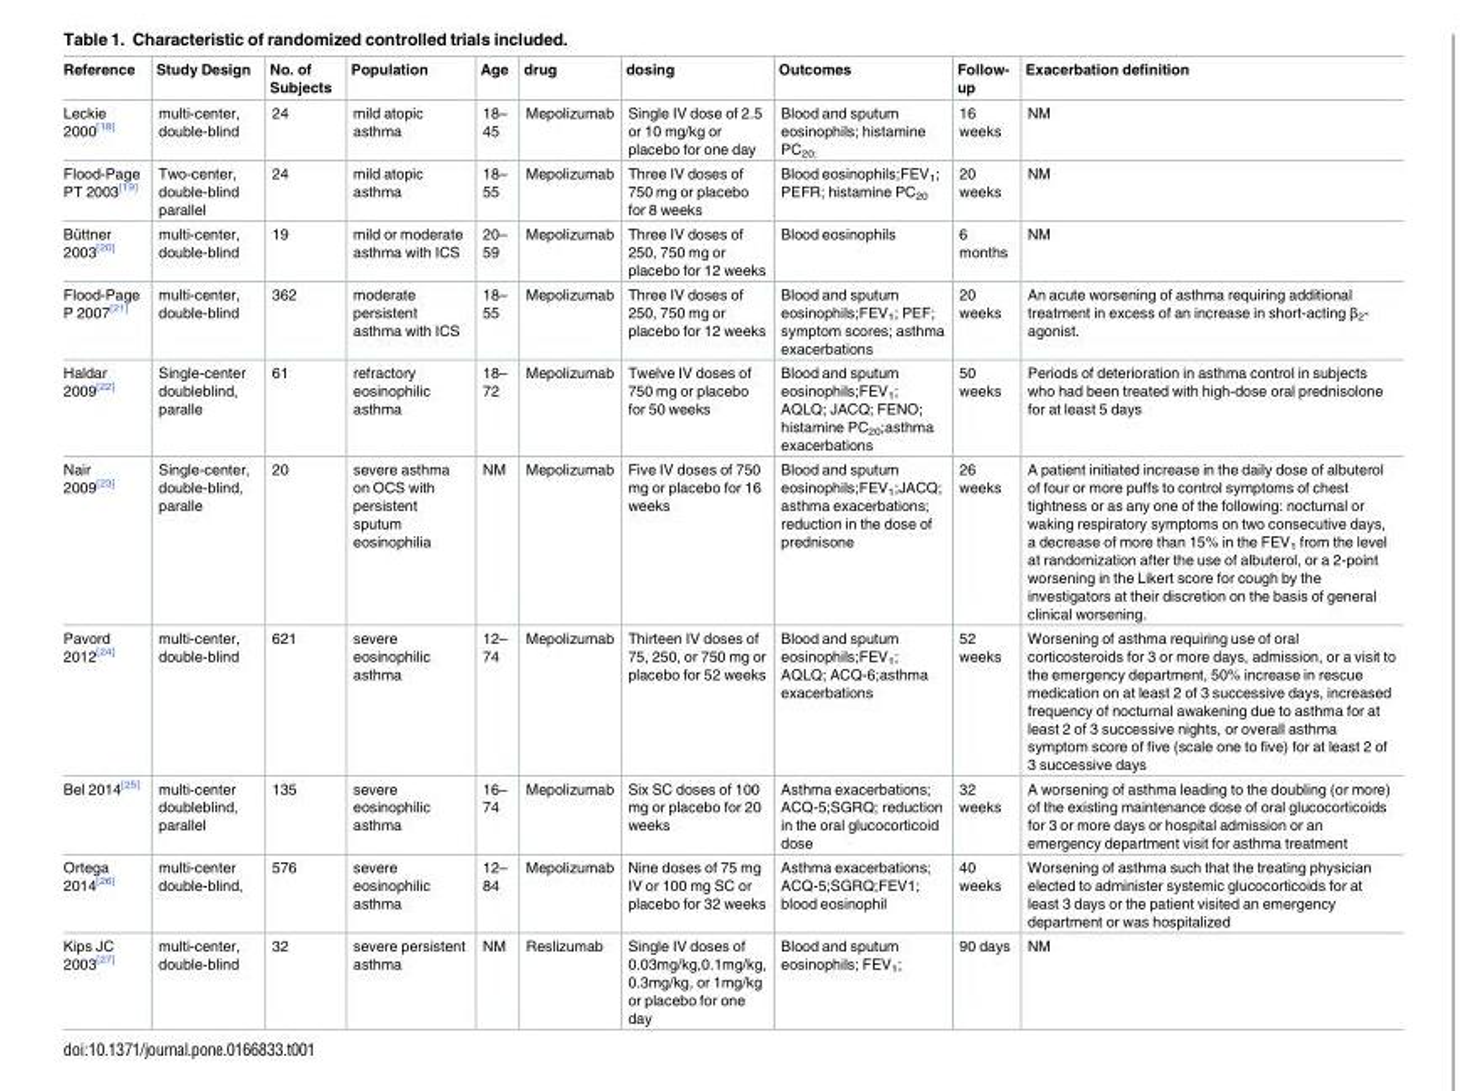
<table><thead><tr><td>Reference</td><td>Study Design</td><td>No. of Subjects</td><td>Population</td><td>Age</td><td>drug</td><td>dosing</td><td>Outcomes</td><td>Follow- up</td><td>Exacerbation definition</td></tr></thead><tbody><tr><td>Leckie 2000<sup>[18]</sup></td><td>multi-center, double-blind</td><td>24</td><td>mild atopic asthma</td><td>18– 45</td><td>Mepolizumab</td><td>Single IV dose of 2.5 or 10 mg/kg or placebo for one day</td><td>Blood and sputum eosinophils; histamine PC<sub>20;</sub></td><td>16 weeks</td><td>NM</td></tr><tr><td>Flood-Page PT 2003<sup>[19]</sup></td><td>Two-center, double-blind parallel</td><td>24</td><td>mild atopic asthma</td><td>18– 55</td><td>Mepolizumab</td><td>Three IV doses of 750 mg or placebo for 8 weeks</td><td>Blood eosinophils;FEV<sub>1</sub>; PEFR; histamine PC<sub>20</sub></td><td>20 weeks</td><td>NM</td></tr><tr><td>Bu¨ttner 2003[20]</td><td>multi-center, double-blind</td><td>19</td><td>mild or moderate asthma with ICS</td><td>20– 59</td><td>Mepolizumab</td><td>Three IV doses of 250, 750 mg or placebo for 12 weeks</td><td>Blood eosinophils</td><td>6 months</td><td>NM</td></tr><tr><td>Flood-Page P 2007<sup>[21]</sup></td><td>multi-center, double-blind</td><td>362</td><td>moderate persistent asthma with ICS</td><td>18– 55</td><td>Mepolizumab</td><td>Three IV doses of 250, 750 mg or placebo for 12 weeks</td><td>Blood and sputum eosinophils;FEV<sub>1</sub>; PEF; symptom scores; asthma exacerbations</td><td>20 weeks</td><td>An acute worsening of asthma requiring additional treatment in excess of an increase in short-acting β<sub>2</sub>- agonist.</td></tr><tr><td>Haldar 2009<sup>[22]</sup></td><td>Single-center doubleblind, paralle</td><td>61</td><td>refractory eosinophilic asthma</td><td>18– 72</td><td>Mepolizumab</td><td>Twelve IV doses of 750 mg or placebo for 50 weeks</td><td>Blood and sputum eosinophils;FEV<sub>1</sub>; AQLQ; JACQ; FENO; histamine PC<sub>20</sub>;asthma exacerbations</td><td>50 weeks</td><td>Periods of deterioration in asthma control in subjects who had been treated with high-dose oral prednisolone for at least 5 days</td></tr><tr><td>Nair 2009<sup>[23]</sup></td><td>Single-center, double-blind, paralle</td><td>20</td><td>severe asthma on OCS with persistent sputum eosinophilia</td><td>NM</td><td>Mepolizumab</td><td>Five IV doses of 750 mg or placebo for 16 weeks</td><td>Blood and sputum eosinophils;FEV<sub>1</sub>;JACQ; asthma exacerbations; reduction in the dose of prednisone</td><td>26 weeks</td><td>A patient initiated increase in the daily dose of albuterol of four or more puffs to control symptoms of chest tightness or as any one of the following: nocturnal or waking respiratory symptoms on two consecutive days, a decrease of more than 15% in the FEV<sub>1</sub> from the level at randomization after the use of albuterol, or a 2-point worsening in the Likert score for cough by the investigators at their discretion on the basis of general clinical worsening.</td></tr><tr><td>Pavord 2012<sup>[24]</sup></td><td>multi-center, double-blind</td><td>621</td><td>severe eosinophilic asthma</td><td>12– 74</td><td>Mepolizumab</td><td>Thirteen IV doses of 75, 250, or 750 mg or placebo for 52 weeks</td><td>Blood and sputum eosinophils;FEV<sub>1</sub>; AQLQ; ACQ-6;asthma exacerbations</td><td>52 weeks</td><td>Worsening of asthma requiring use of oral corticosteroids for 3 or more days, admission, or a visit to the emergency department, 50% increase in rescue medication on at least 2 of 3 successive days, increased frequency of nocturnal awakening due to asthma for at least 2 of 3 successive nights, or overall asthma symptom score of five (scale one to five) for at least 2 of 3 successive days</td></tr><tr><td>Bel 2014<sup>[25]</sup></td><td>multi-center doubleblind, parallel</td><td>135</td><td>severe eosinophilic asthma</td><td>16– 74</td><td>Mepolizumab</td><td>Six SC doses of 100 mg or placebo for 20 weeks</td><td>Asthma exacerbations; ACQ-5;SGRQ; reduction in the oral glucocorticoid dose</td><td>32 weeks</td><td>A worsening of asthma leading to the doubling (or more) of the existing maintenance dose of oral glucocorticoids for 3 or more days or hospital admission or an emergency department visit for asthma treatment</td></tr><tr><td>Ortega 2014<sup>[26]</sup></td><td>multi-center double-blind,</td><td>576</td><td>severe eosinophilic asthma</td><td>12– 84</td><td>Mepolizumab</td><td>Nine doses of 75 mg IV or 100 mg SC or placebo for 32 weeks</td><td>Asthma exacerbations; ACQ-5;SGRQ;FEV1; blood eosinophil</td><td>40 weeks</td><td>Worsening of asthma such that the treating physician elected to administer systemic glucocorticoids for at least 3 days or the patient visited an emergency department or was hospitalized</td></tr><tr><td>Kips JC 2003<sup>[27]</sup></td><td>multi-center, double-blind</td><td>32</td><td>severe persistent asthma</td><td>NM</td><td>Reslizumab</td><td>Single IV doses of 0.03mg/kg,0.1mg/kg, 0.3mg/kg, or 1mg/kg or placebo for one day</td><td>Blood and sputum eosinophils; FEV<sub>1</sub>;</td><td>90 days</td><td>NM</td></tr></tbody></table>